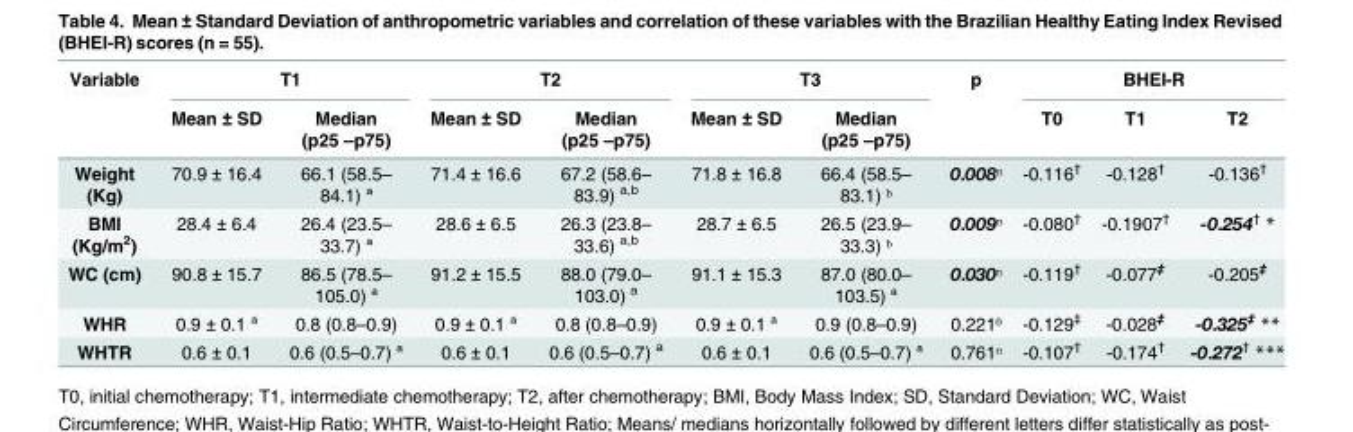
<table><thead><tr><td rowspan="2">Variable</td><td colspan="2">T1</td><td colspan="2">T2</td><td colspan="2">T3</td><td rowspan="2">p</td><td colspan="3">BHEI-R</td></tr><tr><td>Mean ± SD</td><td>Median (p25 –p75)</td><td>Mean ± SD</td><td>Median (p25 –p75)</td><td>Mean ± SD</td><td>Median (p25 –p75)</td><td>T0</td><td>T1</td><td>T2</td></tr></thead><tbody><tr><td>Weight (Kg)</td><td>70.9 ± 16.4</td><td>66.1 (58.5– 84.1) ª</td><td>71.4 ± 16.6</td><td>67.2 (58.6– 83.9) <sup>a,b</sup></td><td>71.8 ± 16.8</td><td>66.4 (58.5– 83.1) ᵇ</td><td>0.008ᶷ</td><td>-0.116<sup>†</sup></td><td>-0.128<sup>†</sup></td><td>-0.136<sup>†</sup></td></tr><tr><td>BMI (Kg/m<sup>2</sup>)</td><td>28.4 ± 6.4</td><td>26.4 (23.5– 33.7) ª</td><td>28.6 ± 6.5</td><td>26.3 (23.8– 33.6) <sup>a,b</sup></td><td>28.7 ± 6.5</td><td>26.5 (23.9– 33.3) ᵇ</td><td>0.009ᶷ</td><td>-0.080<sup>†</sup></td><td>-0.1907<sup>†</sup></td><td>-0.254<sup>†</sup> *</td></tr><tr><td>WC (cm)</td><td>90.8 ± 15.7</td><td>86.5 (78.5– 105.0) ª</td><td>91.2 ± 15.5</td><td>88.0 (79.0– 103.0) <sup>a</sup></td><td>91.1 ± 15.3</td><td>87.0 (80.0– 103.5) ª</td><td>0.030ᶷ</td><td>-0.119<sup>†</sup></td><td>-0.077<sup>‡</sup></td><td>-0.205<sup>‡</sup></td></tr><tr><td>WHR</td><td>0.9 ± 0.1 ª</td><td>0.8 (0.8–0.9)</td><td>0.9 ± 0.1 ª</td><td>0.8 (0.8–0.9)</td><td>0.9 ± 0.1 ª</td><td>0.9 (0.8–0.9)</td><td>0.221ᶿ</td><td>-0.129<sup>‡</sup></td><td>-0.028<sup>‡</sup></td><td>-0.325<sup>‡</sup> **</td></tr><tr><td>WHTR</td><td>0.6 ± 0.1</td><td>0.6 (0.5–0.7) ª</td><td>0.6 ± 0.1</td><td>0.6 (0.5–0.7) <sup>a</sup></td><td>0.6 ± 0.1</td><td>0.6 (0.5–0.7) ª</td><td>0.761ᶷ</td><td>-0.107<sup>†</sup></td><td>-0.174<sup>†</sup></td><td>-0.272<sup>†</sup> ***</td></tr></tbody></table>